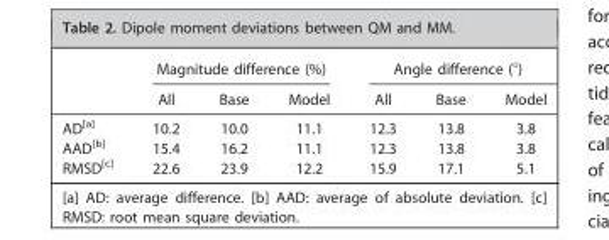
<table><thead><tr><td rowspan="2"></td><td colspan="3">Magnitude difference (%)</td><td colspan="3">Angle difference (°)</td></tr><tr><td>All</td><td>Base</td><td>Model</td><td>All</td><td>Base</td><td>Model</td></tr></thead><tbody><tr><td>AD[a]</td><td>10.2</td><td>10.0</td><td>11.1</td><td>12.3</td><td>13.8</td><td>3.8</td></tr><tr><td>AAD[b]</td><td>15.4</td><td>16.2</td><td>11.1</td><td>12.3</td><td>13.8</td><td>3.8</td></tr><tr><td>RMSD[c]</td><td>22.6</td><td>23.9</td><td>12.2</td><td>15.9</td><td>17.1</td><td>5.1</td></tr></tbody></table>